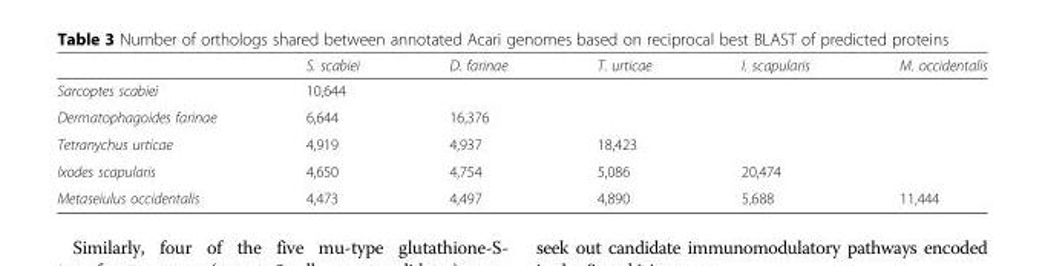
<table><thead><tr><td></td><td>S. scabiei</td><td>D. farinae</td><td>T. urticae</td><td>I. scapularis</td><td>M. occidentalis</td></tr></thead><tbody><tr><td>Sarcoptes scabiei</td><td>10,644</td><td></td><td></td><td></td><td></td></tr><tr><td>Dermatophagoides farinae</td><td>6,644</td><td>16,376</td><td></td><td></td><td></td></tr><tr><td>Tetranychus urticae</td><td>4,919</td><td>4,937</td><td>18,423</td><td></td><td></td></tr><tr><td>Ixodes scapularis</td><td>4,650</td><td>4,754</td><td>5,086</td><td>20,474</td><td></td></tr><tr><td>Metaseiulus occidentalis</td><td>4,473</td><td>4,497</td><td>4,890</td><td>5,688</td><td>11,444</td></tr></tbody></table>